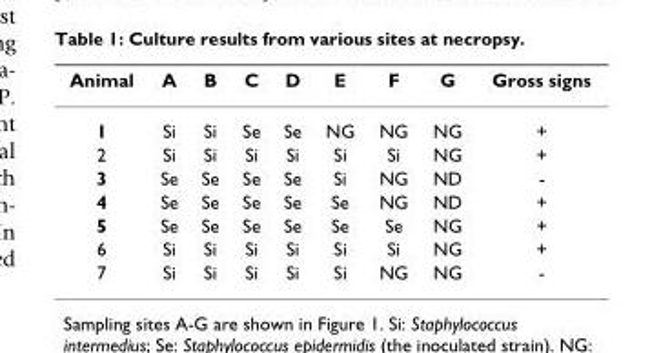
<table><thead><tr><td>Animal</td><td>A</td><td>B</td><td>C</td><td>D</td><td>E</td><td>F</td><td>G</td><td>Gross signs</td></tr></thead><tbody><tr><td>1</td><td>Si</td><td>Si</td><td>Se</td><td>Se</td><td>NG</td><td>NG</td><td>NG</td><td>+</td></tr><tr><td>2</td><td>Si</td><td>Si</td><td>Si</td><td>Si</td><td>Si</td><td>Si</td><td>NG</td><td>+</td></tr><tr><td>3</td><td>Se</td><td>Se</td><td>Se</td><td>Se</td><td>Si</td><td>NG</td><td>ND</td><td>-</td></tr><tr><td>4</td><td>Se</td><td>Se</td><td>Se</td><td>Se</td><td>Se</td><td>NG</td><td>ND</td><td>+</td></tr><tr><td>5</td><td>Se</td><td>Se</td><td>Se</td><td>Se</td><td>Se</td><td>Se</td><td>NG</td><td>+</td></tr><tr><td>6</td><td>Si</td><td>Si</td><td>Si</td><td>Si</td><td>Si</td><td>Si</td><td>NG</td><td>+</td></tr><tr><td>7</td><td>Si</td><td>Si</td><td>Si</td><td>Si</td><td>Si</td><td>NG</td><td>NG</td><td>-</td></tr></tbody></table>